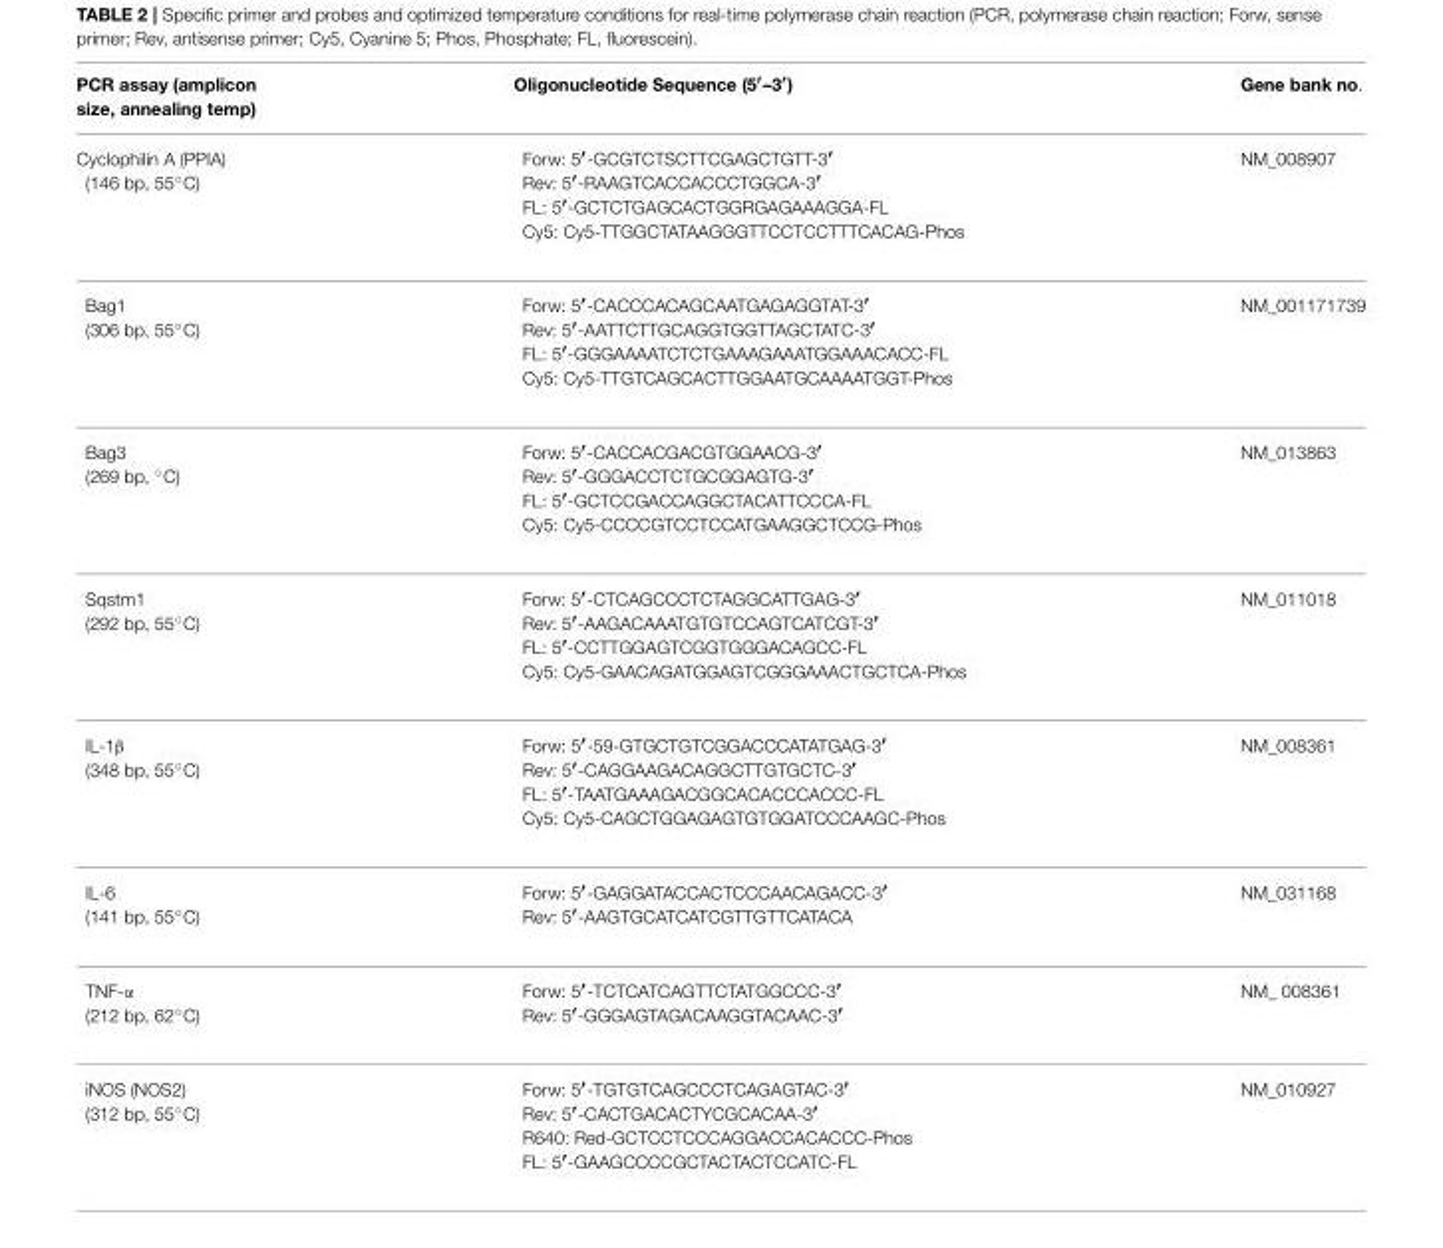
<table><thead><tr><td>PCR assay (amplicon size, annealing temp)</td><td>Oligonucleotide Sequence (5′–3′)</td><td>Gene bank no.</td></tr></thead><tbody><tr><td>Cyclophilin A (PPIA) (146 bp, 55◦C)</td><td>Forw: 5′-GCGTCTSCTTCGAGCTGTT-3′ Rev: 5′-RAAGTCACCACCCTGGCA-3′ FL: 5′-GCTCTGAGCACTGGRGAGAAAGGA-FL Cy5: Cy5-TTGGCTATAAGGGTTCCTCCTTTCACAG-Phos</td><td>NM_008907</td></tr><tr><td>Bag1 (306 bp, 55◦C)</td><td>Forw: 5′-CACCCACAGCAATGAGAGGTAT-3′ Rev: 5′-AATTCTTGCAGGTGGTTAGCTATC-3′ FL: 5′-GGGAAAATCTCTGAAAGAAATGGAAACACC-FL Cy5: Cy5-TTGTCAGCACTTGGAATGCAAAATGGT-Phos</td><td>NM_001171739</td></tr><tr><td>Bag3 (269 bp, ◦C)</td><td>Forw: 5′-CACCACGACGTGGAACG-3′ Rev: 5′-GGGACCTCTGCGGAGTG-3′ FL: 5′-GCTCCGACCAGGCTACATTCCCA-FL Cy5: Cy5-CCCCGTCCTCCATGAAGGCTCCG-Phos</td><td>NM_013863</td></tr><tr><td>Sqstm1 (292 bp, 55◦C)</td><td>Forw: 5′-CTCAGCCCTCTAGGCATTGAG-3′ Rev: 5′-AAGACAAATGTGTCCAGTCATCGT-3′ FL: 5′-CCTTGGAGTCGGTGGGACAGCC-FL Cy5: Cy5-GAACAGATGGAGTCGGGAAACTGCTCA-Phos</td><td>NM_011018</td></tr><tr><td>IL-1β (348 bp, 55◦C)</td><td>Forw: 5′-59-GTGCTGTCGGACCCATATGAG-3′ Rev: 5′-CAGGAAGACAGGCTTGTGCTC-3′ FL: 5′-TAATGAAAGACGGCACACCCACCC-FL Cy5: Cy5-CAGCTGGAGAGTGTGGATCCCAAGC-Phos</td><td>NM_008361</td></tr><tr><td>IL-6 (141 bp, 55◦C)</td><td>Forw: 5′-GAGGATACCACTCCCAACAGACC-3′ Rev: 5′-AAGTGCATCATCGTTGTTCATACA</td><td>NM_031168</td></tr><tr><td>TNF-α (212 bp, 62◦C)</td><td>Forw: 5′-TCTCATCAGTTCTATGGCCC-3′ Rev: 5′-GGGAGTAGACAAGGTACAAC-3′</td><td>NM_ 008361</td></tr><tr><td>iNOS (NOS2) (312 bp, 55◦C)</td><td>Forw: 5′-TGTGTCAGCCCTCAGAGTAC-3′ Rev: 5′-CACTGACACTYCGCACAA-3′ R640: Red-GCTCCTCCCAGGACCACACCC-Phos FL: 5′-GAAGCCCCGCTACTACTCCATC-FL</td><td>NM_010927</td></tr></tbody></table>